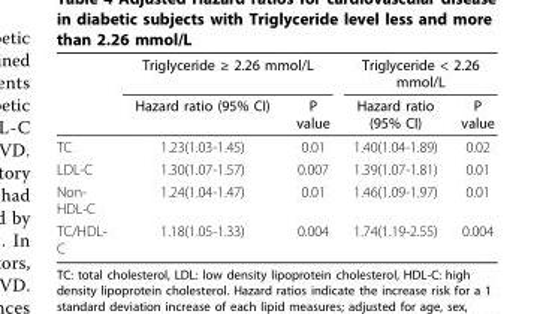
<table><thead><tr><td rowspan="2"></td><td colspan="2">Triglyceride ≥ 2.26 mmol/L</td><td colspan="2">Triglyceride &lt; 2.26 mmol/L</td></tr><tr><td>Hazard ratio (95% CI)</td><td>P value</td><td>Hazard ratio (95% CI)</td><td>P value</td></tr></thead><tbody><tr><td>TC</td><td>1.23(1.03-1.45)</td><td>0.01</td><td>1.40(1.04-1.89)</td><td>0.02</td></tr><tr><td>LDL-C</td><td>1.30(1.07-1.57)</td><td>0.007</td><td>1.39(1.07-1.81)</td><td>0.01</td></tr><tr><td>Non- HDL-C</td><td>1.24(1.04-1.47)</td><td>0.01</td><td>1.46(1.09-1.97)</td><td>0.01</td></tr><tr><td>TC/HDL- C</td><td>1.18(1.05-1.33)</td><td>0.004</td><td>1.74(1.19-2.55)</td><td>0.004</td></tr></tbody></table>